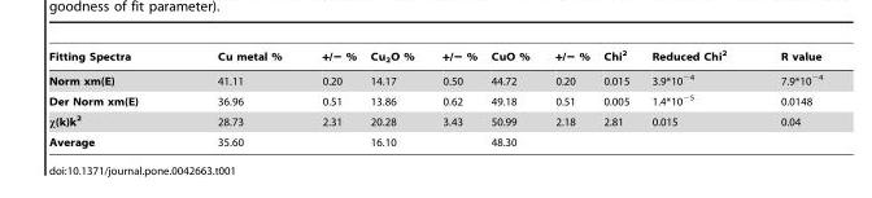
<table><thead><tr><td>Fitting Spectra</td><td>Cu metal %</td><td>+/− %</td><td>Cu<sub>2</sub>O %</td><td>+/− %</td><td>CuO %</td><td>+/− %</td><td>Chi<sup>2</sup></td><td>Reduced Chi<sup>2</sup></td><td>R value</td></tr></thead><tbody><tr><td>Norm xm(E)</td><td>41.11</td><td>0.20</td><td>14.17</td><td>0.50</td><td>44.72</td><td>0.20</td><td>0.015</td><td>3.9*10<sup>−4</sup></td><td>7.9*10<sup>−4</sup></td></tr><tr><td>Der Norm xm(E)</td><td>36.96</td><td>0.51</td><td>13.86</td><td>0.62</td><td>49.18</td><td>0.51</td><td>0.005</td><td>1.4*10<sup>−5</sup></td><td>0.0148</td></tr><tr><td>χ(k)k<sup>2</sup></td><td>28.73</td><td>2.31</td><td>20.28</td><td>3.43</td><td>50.99</td><td>2.18</td><td>2.81</td><td>0.015</td><td>0.04</td></tr><tr><td>Average</td><td>35.60</td><td></td><td>16.10</td><td></td><td>48.30</td><td></td><td></td><td></td><td></td></tr></tbody></table>